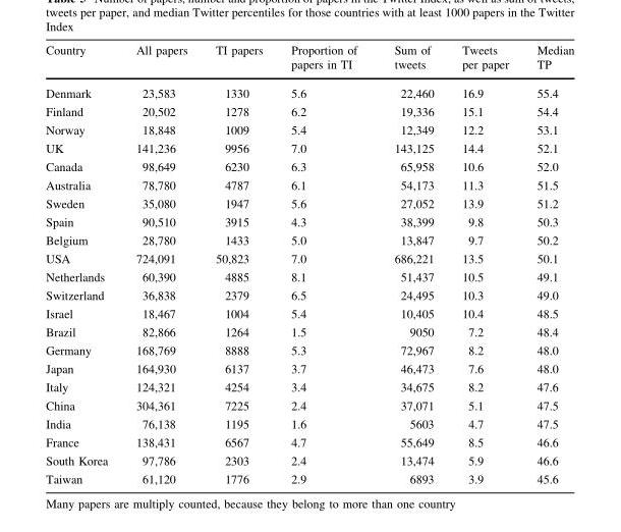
<table><thead><tr><td>Country</td><td>All papers</td><td>TI papers</td><td>Proportion of papers in TI</td><td>Sum of tweets</td><td>Tweets per paper</td><td>Median TP</td></tr></thead><tbody><tr><td>Denmark</td><td>23,583</td><td>1330</td><td>5.6</td><td>22,460</td><td>16.9</td><td>55.4</td></tr><tr><td>Finland</td><td>20,502</td><td>1278</td><td>6.2</td><td>19,336</td><td>15.1</td><td>54.4</td></tr><tr><td>Norway</td><td>18,848</td><td>1009</td><td>5.4</td><td>12,349</td><td>12.2</td><td>53.1</td></tr><tr><td>UK</td><td>141,236</td><td>9956</td><td>7.0</td><td>143,125</td><td>14.4</td><td>52.1</td></tr><tr><td>Canada</td><td>98,649</td><td>6230</td><td>6.3</td><td>65,958</td><td>10.6</td><td>52.0</td></tr><tr><td>Australia</td><td>78,780</td><td>4787</td><td>6.1</td><td>54,173</td><td>11.3</td><td>51.5</td></tr><tr><td>Sweden</td><td>35,080</td><td>1947</td><td>5.6</td><td>27,052</td><td>13.9</td><td>51.2</td></tr><tr><td>Spain</td><td>90,510</td><td>3915</td><td>4.3</td><td>38,399</td><td>9.8</td><td>50.3</td></tr><tr><td>Belgium</td><td>28,780</td><td>1433</td><td>5.0</td><td>13,847</td><td>9.7</td><td>50.2</td></tr><tr><td>USA</td><td>724,091</td><td>50,823</td><td>7.0</td><td>686,221</td><td>13.5</td><td>50.1</td></tr><tr><td>Netherlands</td><td>60,390</td><td>4885</td><td>8.1</td><td>51,437</td><td>10.5</td><td>49.1</td></tr><tr><td>Switzerland</td><td>36,838</td><td>2379</td><td>6.5</td><td>24,495</td><td>10.3</td><td>49.0</td></tr><tr><td>Israel</td><td>18,467</td><td>1004</td><td>5.4</td><td>10,405</td><td>10.4</td><td>48.5</td></tr><tr><td>Brazil</td><td>82,866</td><td>1264</td><td>1.5</td><td>9050</td><td>7.2</td><td>48.4</td></tr><tr><td>Germany</td><td>168,769</td><td>8888</td><td>5.3</td><td>72,967</td><td>8.2</td><td>48.0</td></tr><tr><td>Japan</td><td>164,930</td><td>6137</td><td>3.7</td><td>46,473</td><td>7.6</td><td>48.0</td></tr><tr><td>Italy</td><td>124,321</td><td>4254</td><td>3.4</td><td>34,675</td><td>8.2</td><td>47.6</td></tr><tr><td>China</td><td>304,361</td><td>7225</td><td>2.4</td><td>37,071</td><td>5.1</td><td>47.5</td></tr><tr><td>India</td><td>76,138</td><td>1195</td><td>1.6</td><td>5603</td><td>4.7</td><td>47.5</td></tr><tr><td>France</td><td>138,431</td><td>6567</td><td>4.7</td><td>55,649</td><td>8.5</td><td>46.6</td></tr><tr><td>South Korea</td><td>97,786</td><td>2303</td><td>2.4</td><td>13,474</td><td>5.9</td><td>46.6</td></tr><tr><td>Taiwan</td><td>61,120</td><td>1776</td><td>2.9</td><td>6893</td><td>3.9</td><td>45.6</td></tr></tbody></table>